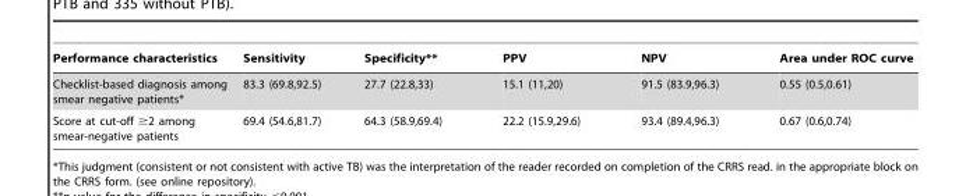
<table><thead><tr><td>Performance characteristics</td><td>Sensitivity</td><td>Specificity**</td><td>PPV</td><td>NPV</td><td>Area under ROC curve</td></tr></thead><tbody><tr><td>Checklist-based diagnosis among smear negative patients*</td><td>83.3 (69.8,92.5)</td><td>27.7 (22.8,33)</td><td>15.1 (11,20)</td><td>91.5 (83.9,96.3)</td><td>0.55 (0.5,0.61)</td></tr><tr><td>Score at cut-off ≥2 among smear-negative patients</td><td>69.4 (54.6,81.7)</td><td>64.3 (58.9,69.4)</td><td>22.2 (15.9,29.6)</td><td>93.4 (89.4,96.3)</td><td>0.67 (0.6,0.74)</td></tr></tbody></table>